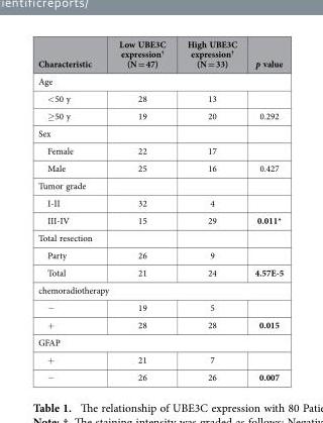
<table><thead><tr><td>Characteristic</td><td>Low UBE3C expression<sup>†</sup> (N = 47)</td><td>High UBE3C expression<sup>†</sup> (N = 33)</td><td>p value</td></tr></thead><tbody><tr><td colspan="4">Age</td></tr><tr><td>&lt; 50 y</td><td>28</td><td>13</td><td></td></tr><tr><td>≥ 50 y</td><td>19</td><td>20</td><td>0.292</td></tr><tr><td colspan="4">Sex</td></tr><tr><td>Female</td><td>22</td><td>17</td><td></td></tr><tr><td>Male</td><td>25</td><td>16</td><td>0.427</td></tr><tr><td colspan="4">Tumor grade</td></tr><tr><td>I-II</td><td>32</td><td>4</td><td></td></tr><tr><td>III-IV</td><td>15</td><td>29</td><td>0.011*</td></tr><tr><td colspan="4">Total resection</td></tr><tr><td>Party</td><td>26</td><td>9</td><td></td></tr><tr><td>Total</td><td>21</td><td>24</td><td>4.57E-5</td></tr><tr><td colspan="4">chemoradiotherapy</td></tr><tr><td>−</td><td>19</td><td>5</td><td></td></tr><tr><td>+</td><td>28</td><td>28</td><td>0.015</td></tr><tr><td colspan="4">GFAP</td></tr><tr><td>+</td><td>21</td><td>7</td><td></td></tr><tr><td>−</td><td>26</td><td>26</td><td>0.007</td></tr></tbody></table>